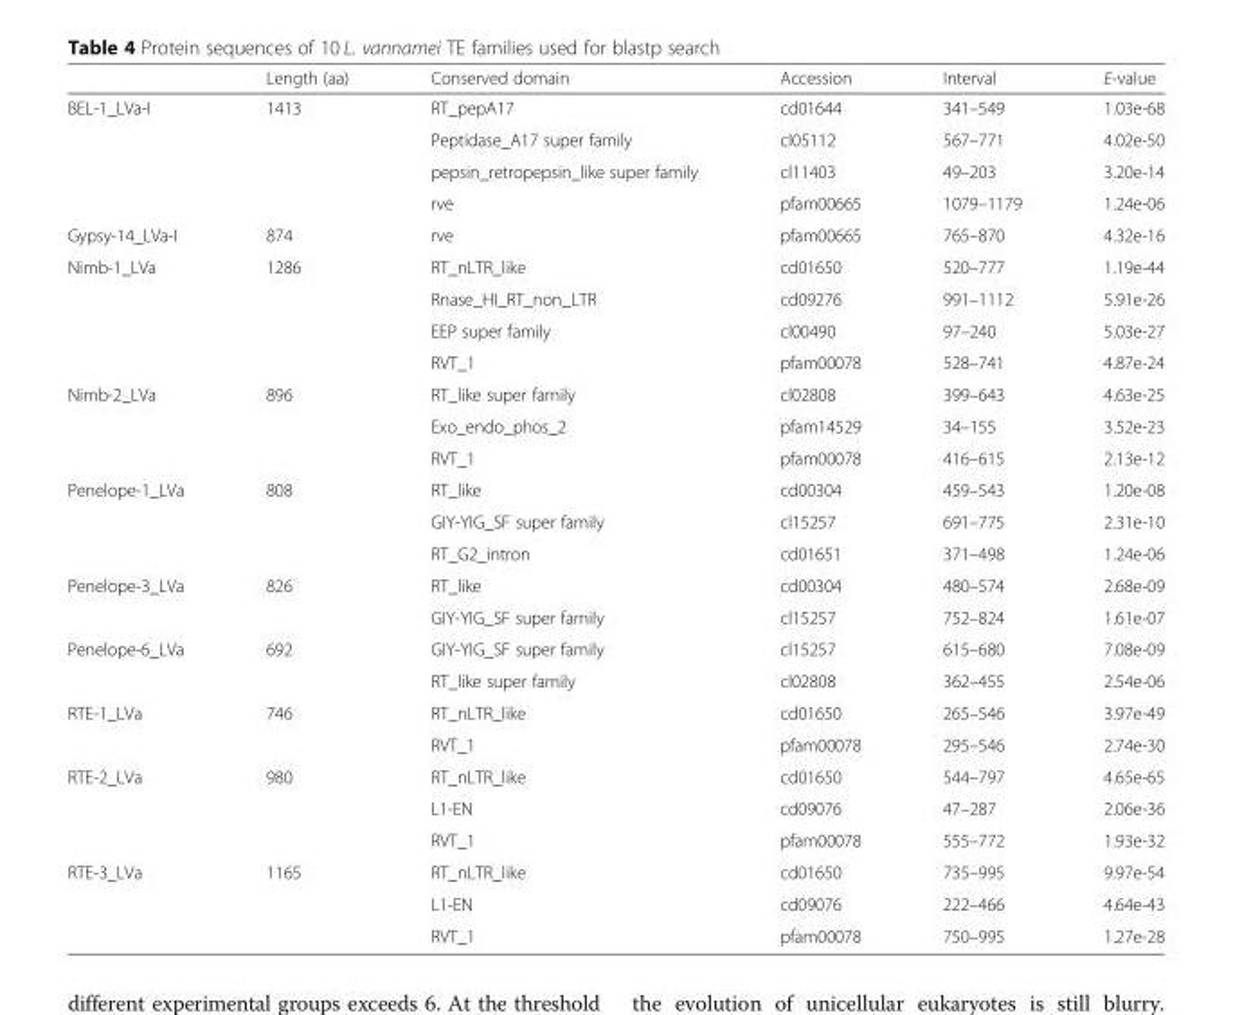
<table><thead><tr><td></td><td>Length (aa)</td><td>Conserved domain</td><td>Accession</td><td>Interval</td><td>E-value</td></tr></thead><tbody><tr><td rowspan="4">BEL-1_LVa-I</td><td rowspan="4">1413</td><td>RT_pepA17</td><td>cd01644</td><td>341–549</td><td>1.03e-68</td></tr><tr><td>Peptidase_A17 super family</td><td>cl05112</td><td>567–771</td><td>4.02e-50</td></tr><tr><td>pepsin_retropepsin_like super family</td><td>cl11403</td><td>49–203</td><td>3.20e-14</td></tr><tr><td>rve</td><td>pfam00665</td><td>1079–1179</td><td>1.24e-06</td></tr><tr><td>Gypsy-14_LVa-I</td><td>874</td><td>rve</td><td>pfam00665</td><td>765–870</td><td>4.32e-16</td></tr><tr><td rowspan="4">Nimb-1_LVa</td><td rowspan="4">1286</td><td>RT_nLTR_like</td><td>cd01650</td><td>520–777</td><td>1.19e-44</td></tr><tr><td>Rnase_HI_RT_non_LTR</td><td>cd09276</td><td>991–1112</td><td>5.91e-26</td></tr><tr><td>EEP super family</td><td>cl00490</td><td>97–240</td><td>5.03e-27</td></tr><tr><td>RVT_1</td><td>pfam00078</td><td>528–741</td><td>4.87e-24</td></tr><tr><td rowspan="3">Nimb-2_LVa</td><td rowspan="3">896</td><td>RT_like super family</td><td>cl02808</td><td>399–643</td><td>4.63e-25</td></tr><tr><td>Exo_endo_phos_2</td><td>pfam14529</td><td>34–155</td><td>3.52e-23</td></tr><tr><td>RVT_1</td><td>pfam00078</td><td>416–615</td><td>2.13e-12</td></tr><tr><td rowspan="3">Penelope-1_LVa</td><td rowspan="3">808</td><td>RT_like</td><td>cd00304</td><td>459–543</td><td>1.20e-08</td></tr><tr><td>GIY-YIG_SF super family</td><td>cl15257</td><td>691–775</td><td>2.31e-10</td></tr><tr><td>RT_G2_intron</td><td>cd01651</td><td>371–498</td><td>1.24e-06</td></tr><tr><td rowspan="2">Penelope-3_LVa</td><td rowspan="2">826</td><td>RT_like</td><td>cd00304</td><td>480–574</td><td>2.68e-09</td></tr><tr><td>GIY-YIG_SF super family</td><td>cl15257</td><td>752–824</td><td>1.61e-07</td></tr><tr><td rowspan="2">Penelope-6_LVa</td><td rowspan="2">692</td><td>GIY-YIG_SF super family</td><td>cl15257</td><td>615–680</td><td>7.08e-09</td></tr><tr><td>RT_like super family</td><td>cl02808</td><td>362–455</td><td>2.54e-06</td></tr><tr><td rowspan="2">RTE-1_LVa</td><td rowspan="2">746</td><td>RT_nLTR_like</td><td>cd01650</td><td>265–546</td><td>3.97e-49</td></tr><tr><td>RVT_1</td><td>pfam00078</td><td>295–546</td><td>2.74e-30</td></tr><tr><td rowspan="3">RTE-2_LVa</td><td rowspan="3">980</td><td>RT_nLTR_like</td><td>cd01650</td><td>544–797</td><td>4.65e-65</td></tr><tr><td>L1-EN</td><td>cd09076</td><td>47–287</td><td>2.06e-36</td></tr><tr><td>RVT_1</td><td>pfam00078</td><td>555–772</td><td>1.93e-32</td></tr><tr><td rowspan="3">RTE-3_LVa</td><td rowspan="3">1165</td><td>RT_nLTR_like</td><td>cd01650</td><td>735–995</td><td>9.97e-54</td></tr><tr><td>L1-EN</td><td>cd09076</td><td>222–466</td><td>4.64e-43</td></tr><tr><td>RVT_1</td><td>pfam00078</td><td>750–995</td><td>1.27e-28</td></tr></tbody></table>